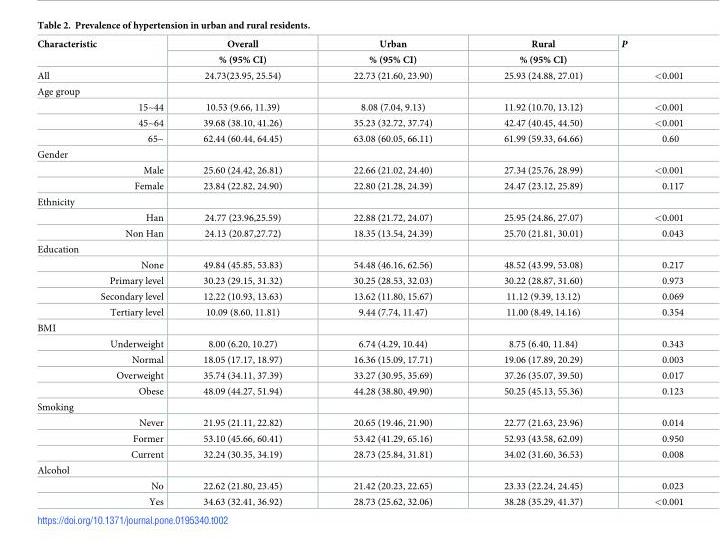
<table><thead><tr><td rowspan="2">Characteristic</td><td rowspan="2">Overall % (95% CI)</td><td rowspan="2">Urban % (95% CI)</td><td rowspan="2">Rural % (95% CI)</td><td rowspan="2">P</td></tr><tr></tr></thead><tbody><tr><td>All</td><td>24.73(23.95, 25.54)</td><td>22.73 (21.60, 23.90)</td><td>25.93 (24.88, 27.01)</td><td>&lt;0.001</td></tr><tr><td colspan="5">Age group</td></tr><tr><td>15~44</td><td>10.53 (9.66, 11.39)</td><td>8.08 (7.04, 9.13)</td><td>11.92 (10.70, 13.12)</td><td>&lt;0.001</td></tr><tr><td>45~64</td><td>39.68 (38.10, 41.26)</td><td>35.23 (32.72, 37.74)</td><td>42.47 (40.45, 44.50)</td><td>&lt;0.001</td></tr><tr><td>65~</td><td>62.44 (60.44, 64.45)</td><td>63.08 (60.05, 66.11)</td><td>61.99 (59.33, 64.66)</td><td>0.60</td></tr><tr><td colspan="5">Gender</td></tr><tr><td>Male</td><td>25.60 (24.42, 26.81)</td><td>22.66 (21.02, 24.40)</td><td>27.34 (25.76, 28.99)</td><td>&lt;0.001</td></tr><tr><td>Female</td><td>23.84 (22.82, 24.90)</td><td>22.80 (21.28, 24.39)</td><td>24.47 (23.12, 25.89)</td><td>0.117</td></tr><tr><td colspan="5">Ethnicity</td></tr><tr><td>Han</td><td>24.77 (23.96,25.59)</td><td>22.88 (21.72, 24.07)</td><td>25.95 (24.86, 27.07)</td><td>&lt;0.001</td></tr><tr><td>Non Han</td><td>24.13 (20.87,27.72)</td><td>18.35 (13.54, 24.39)</td><td>25.70 (21.81, 30.01)</td><td>0.043</td></tr><tr><td colspan="5">Education</td></tr><tr><td>None</td><td>49.84 (45.85, 53.83)</td><td>54.48 (46.16, 62.56)</td><td>48.52 (43.99, 53.08)</td><td>0.217</td></tr><tr><td>Primary level</td><td>30.23 (29.15, 31.32)</td><td>30.25 (28.53, 32.03)</td><td>30.22 (28.87, 31.60)</td><td>0.973</td></tr><tr><td>Secondary level</td><td>12.22 (10.93, 13.63)</td><td>13.62 (11.80, 15.67)</td><td>11.12 (9.39, 13.12)</td><td>0.069</td></tr><tr><td>Tertiary level</td><td>10.09 (8.60, 11.81)</td><td>9.44 (7.74, 11.47)</td><td>11.00 (8.49, 14.16)</td><td>0.354</td></tr><tr><td colspan="5">BMI</td></tr><tr><td>Underweight</td><td>8.00 (6.20, 10.27)</td><td>6.74 (4.29, 10.44)</td><td>8.75 (6.40, 11.84)</td><td>0.343</td></tr><tr><td>Normal</td><td>18.05 (17.17, 18.97)</td><td>16.36 (15.09, 17.71)</td><td>19.06 (17.89, 20.29)</td><td>0.003</td></tr><tr><td>Overweight</td><td>35.74 (34.11, 37.39)</td><td>33.27 (30.95, 35.69)</td><td>37.26 (35.07, 39.50)</td><td>0.017</td></tr><tr><td>Obese</td><td>48.09 (44.27, 51.94)</td><td>44.28 (38.80, 49.90)</td><td>50.25 (45.13, 55.36)</td><td>0.123</td></tr><tr><td colspan="5">Smoking</td></tr><tr><td>Never</td><td>21.95 (21.11, 22.82)</td><td>20.65 (19.46, 21.90)</td><td>22.77 (21.63, 23.96)</td><td>0.014</td></tr><tr><td>Former</td><td>53.10 (45.66, 60.41)</td><td>53.42 (41.29, 65.16)</td><td>52.93 (43.58, 62.09)</td><td>0.950</td></tr><tr><td>Current</td><td>32.24 (30.35, 34.19)</td><td>28.73 (25.84, 31.81)</td><td>34.02 (31.60, 36.53)</td><td>0.008</td></tr><tr><td colspan="5">Alcohol</td></tr><tr><td>No</td><td>22.62 (21.80, 23.45)</td><td>21.42 (20.23, 22.65)</td><td>23.33 (22.24, 24.45)</td><td>0.023</td></tr><tr><td>Yes</td><td>34.63 (32.41, 36.92)</td><td>28.73 (25.62, 32.06)</td><td>38.28 (35.29, 41.37)</td><td>&lt;0.001</td></tr></tbody></table>